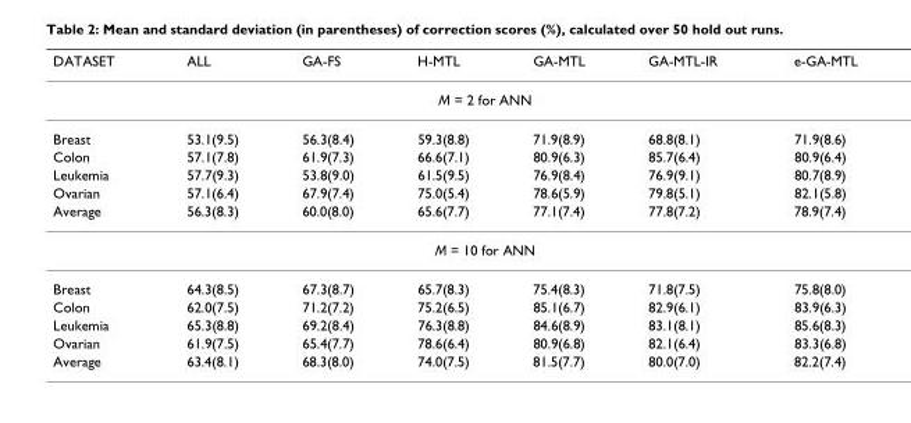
<table><thead><tr><td>DATASET</td><td>ALL</td><td>GA-FS</td><td>H-MTL</td><td>GA-MTL</td><td>GA-MTL-IR</td><td>e-GA-MTL</td></tr></thead><tbody><tr><td colspan="7">M = 2 for ANN</td></tr><tr><td>Breast</td><td>53.1(9.5)</td><td>56.3(8.4)</td><td>59.3(8.8)</td><td>71.9(8.9)</td><td>68.8(8.1)</td><td>71.9(8.6)</td></tr><tr><td>Colon</td><td>57.1(7.8)</td><td>61.9(7.3)</td><td>66.6(7.1)</td><td>80.9(6.3)</td><td>85.7(6.4)</td><td>80.9(6.4)</td></tr><tr><td>Leukemia</td><td>57.7(9.3)</td><td>53.8(9.0)</td><td>61.5(9.5)</td><td>76.9(8.4)</td><td>76.9(9.1)</td><td>80.7(8.9)</td></tr><tr><td>Ovarian</td><td>57.1(6.4)</td><td>67.9(7.4)</td><td>75.0(5.4)</td><td>78.6(5.9)</td><td>79.8(5.1)</td><td>82.1(5.8)</td></tr><tr><td>Average</td><td>56.3(8.3)</td><td>60.0(8.0)</td><td>65.6(7.7)</td><td>77.1(7.4)</td><td>77.8(7.2)</td><td>78.9(7.4)</td></tr><tr><td colspan="7">M = 10 for ANN</td></tr><tr><td>Breast</td><td>64.3(8.5)</td><td>67.3(8.7)</td><td>65.7(8.3)</td><td>75.4(8.3)</td><td>71.8(7.5)</td><td>75.8(8.0)</td></tr><tr><td>Colon</td><td>62.0(7.5)</td><td>71.2(7.2)</td><td>75.2(6.5)</td><td>85.1(6.7)</td><td>82.9(6.1)</td><td>83.9(6.3)</td></tr><tr><td>Leukemia</td><td>65.3(8.8)</td><td>69.2(8.4)</td><td>76.3(8.8)</td><td>84.6(8.9)</td><td>83.1(8.1)</td><td>85.6(8.3)</td></tr><tr><td>Ovarian</td><td>61.9(7.5)</td><td>65.4(7.7)</td><td>78.6(6.4)</td><td>80.9(6.8)</td><td>82.1(6.4)</td><td>83.3(6.8)</td></tr><tr><td>Average</td><td>63.4(8.1)</td><td>68.3(8.0)</td><td>74.0(7.5)</td><td>81.5(7.7)</td><td>80.0(7.0)</td><td>82.2(7.4)</td></tr></tbody></table>